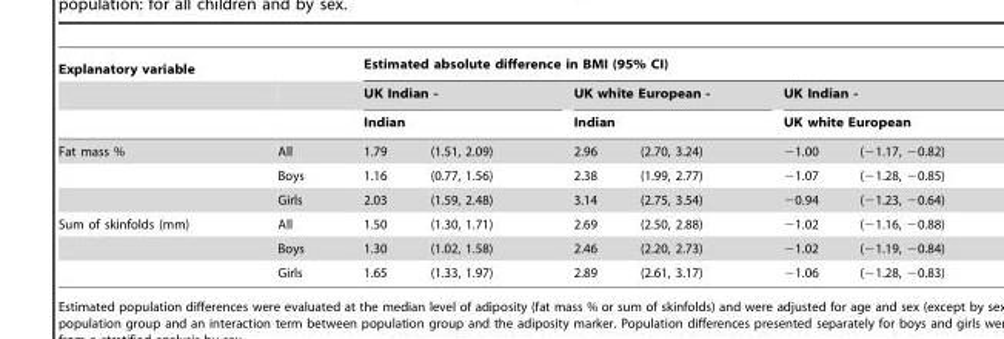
<table><thead><tr><td rowspan="4">Explanatory variable Fat mass %</td><td rowspan="4">All</td><td colspan="6">Estimated absolute difference in BMI (95% CI)</td></tr><tr><td rowspan="2" colspan="2">UK Indian - Indian</td><td rowspan="2" colspan="2">UK white European - Indian</td><td rowspan="2" colspan="2">UK Indian - UK white European</td></tr><tr></tr><tr><td>1.79</td><td>(1.51, 2.09)</td><td>2.96</td><td>(2.70, 3.24)</td><td>−1.00</td><td>(−1.17, −0.82)</td></tr></thead><tbody><tr><td></td><td>Boys</td><td>1.16</td><td>(0.77, 1.56)</td><td>2.38</td><td>(1.99, 2.77)</td><td>−1.07</td><td>(−1.28, −0.85)</td></tr><tr><td></td><td>Girls</td><td>2.03</td><td>(1.59, 2.48)</td><td>3.14</td><td>(2.75, 3.54)</td><td>−0.94</td><td>(−1.23, −0.64)</td></tr><tr><td rowspan="3">Sum of skinfolds (mm)</td><td>All</td><td>1.50</td><td>(1.30, 1.71)</td><td>2.69</td><td>(2.50, 2.88)</td><td>−1.02</td><td>(−1.16, −0.88)</td></tr><tr><td>Boys</td><td>1.30</td><td>(1.02, 1.58)</td><td>2.46</td><td>(2.20, 2.73)</td><td>−1.02</td><td>(−1.19, −0.84)</td></tr><tr><td>Girls</td><td>1.65</td><td>(1.33, 1.97)</td><td>2.89</td><td>(2.61, 3.17)</td><td>−1.06</td><td>(−1.28, −0.83)</td></tr></tbody></table>